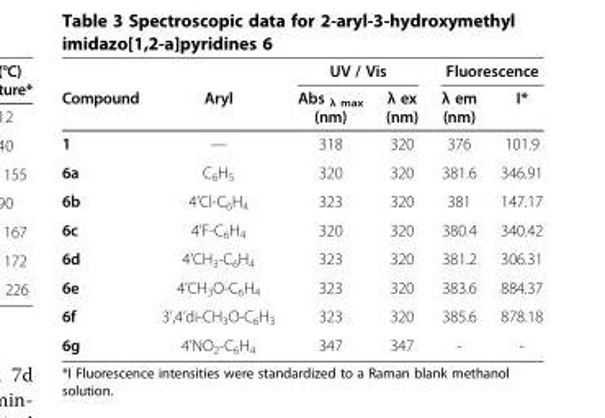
<table><thead><tr><td rowspan="2">Compound</td><td rowspan="2">Aryl</td><td colspan="2">UV / Vis</td><td colspan="2">Fluorescence</td></tr><tr><td>Abs <sub>λ max</sub> (nm)</td><td>λ ex (nm)</td><td>λ em (nm)</td><td>I*</td></tr></thead><tbody><tr><td>1</td><td>—</td><td>318</td><td>320</td><td>376</td><td>101.9</td></tr><tr><td>6a</td><td>C<sub>6</sub>H<sub>5</sub></td><td>320</td><td>320</td><td>381.6</td><td>346.91</td></tr><tr><td>6b</td><td>4’Cl-C<sub>6</sub>H<sub>4</sub></td><td>323</td><td>320</td><td>381</td><td>147.17</td></tr><tr><td>6c</td><td>4’F-C<sub>6</sub>H<sub>4</sub></td><td>320</td><td>320</td><td>380.4</td><td>340.42</td></tr><tr><td>6d</td><td>4’CH<sub>3</sub>-C<sub>6</sub>H<sub>4</sub></td><td>323</td><td>320</td><td>381.2</td><td>306.31</td></tr><tr><td>6e</td><td>4’CH<sub>3</sub>O-C<sub>6</sub>H<sub>4</sub></td><td>323</td><td>320</td><td>383.6</td><td>884.37</td></tr><tr><td>6f</td><td>3’,4’di-CH<sub>3</sub>O-C<sub>6</sub>H<sub>3</sub></td><td>323</td><td>320</td><td>385.6</td><td>878.18</td></tr><tr><td>6g</td><td>4’NO<sub>2</sub>-C<sub>6</sub>H<sub>4</sub></td><td>347</td><td>347</td><td>-</td><td>-</td></tr></tbody></table>